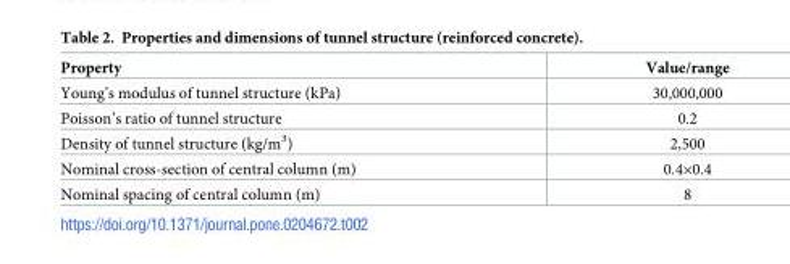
<table><thead><tr><td>Property</td><td>Value/range</td></tr></thead><tbody><tr><td>Young’s modulus of tunnel structure (kPa)</td><td>30,000,000</td></tr><tr><td>Poisson’s ratio of tunnel structure</td><td>0.2</td></tr><tr><td>Density of tunnel structure (kg/m<sup>3</sup>)</td><td>2,500</td></tr><tr><td>Nominal cross-section of central column (m)</td><td>0.4×0.4</td></tr><tr><td>Nominal spacing of central column (m)</td><td>8</td></tr></tbody></table>